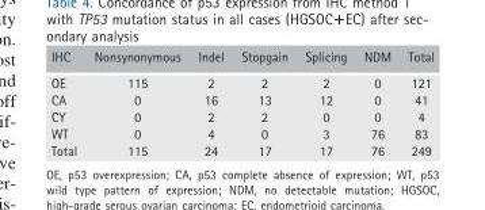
<table><thead><tr><td>IHC</td><td>Nonsynonymous</td><td>Indel</td><td>Stopgain</td><td>Splicing</td><td>NDM</td><td>Total</td></tr></thead><tbody><tr><td>OE</td><td>115</td><td>2</td><td>2</td><td>2</td><td>0</td><td>121</td></tr><tr><td>CA</td><td>0</td><td>16</td><td>13</td><td>12</td><td>0</td><td>41</td></tr><tr><td>CY</td><td>0</td><td>2</td><td>2</td><td>0</td><td>0</td><td>4</td></tr><tr><td>WT</td><td>0</td><td>4</td><td>0</td><td>3</td><td>76</td><td>83</td></tr><tr><td>Total</td><td>115</td><td>24</td><td>17</td><td>17</td><td>76</td><td>249</td></tr></tbody></table>